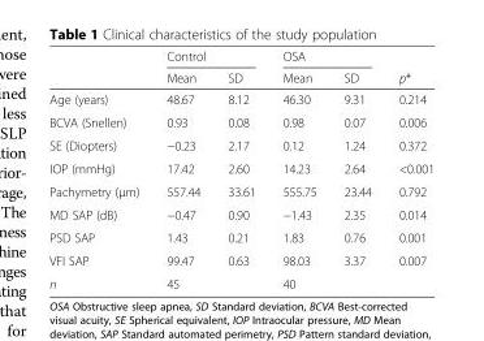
<table><thead><tr><td rowspan="2"></td><td colspan="2">Control</td><td colspan="2">OSA</td><td rowspan="2">p*</td></tr><tr><td>Mean</td><td>SD</td><td>Mean</td><td>SD</td></tr></thead><tbody><tr><td>Age (years)</td><td>48.67</td><td>8.12</td><td>46.30</td><td>9.31</td><td>0.214</td></tr><tr><td>BCVA (Snellen)</td><td>0.93</td><td>0.08</td><td>0.98</td><td>0.07</td><td>0.006</td></tr><tr><td>SE (Diopters)</td><td>−0.23</td><td>2.17</td><td>0.12</td><td>1.24</td><td>0.372</td></tr><tr><td>IOP (mmHg)</td><td>17.42</td><td>2.60</td><td>14.23</td><td>2.64</td><td>&lt;0.001</td></tr><tr><td>Pachymetry (μm)</td><td>557.44</td><td>33.61</td><td>555.75</td><td>23.44</td><td>0.792</td></tr><tr><td>MD SAP (dB)</td><td>−0.47</td><td>0.90</td><td>−1.43</td><td>2.35</td><td>0.014</td></tr><tr><td>PSD SAP</td><td>1.43</td><td>0.21</td><td>1.83</td><td>0.76</td><td>0.001</td></tr><tr><td>VFI SAP</td><td>99.47</td><td>0.63</td><td>98.03</td><td>3.37</td><td>0.007</td></tr><tr><td>n</td><td colspan="2">45</td><td colspan="2">40</td><td></td></tr></tbody></table>